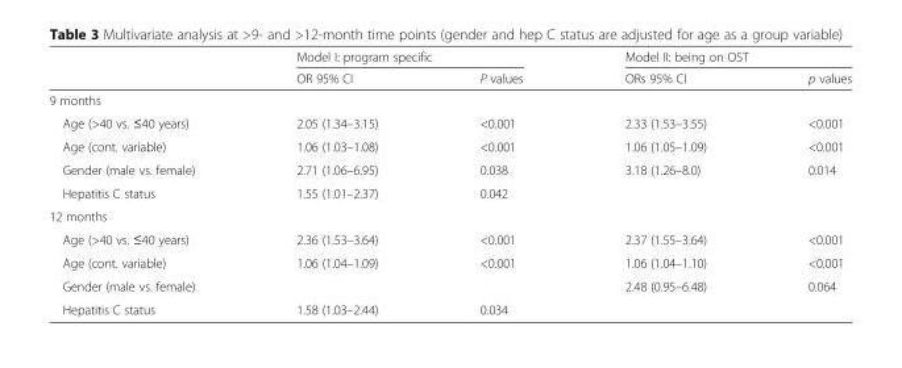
<table><thead><tr><td rowspan="2"></td><td colspan="2">Model I: program specific</td><td colspan="2">Model II: being on OST</td></tr><tr><td>OR 95% CI</td><td>P values</td><td>ORs 95% CI</td><td>p values</td></tr></thead><tbody><tr><td colspan="5">9 months</td></tr><tr><td>Age (&gt;40 vs. ≤40 years)</td><td>2.05 (1.34–3.15)</td><td>&lt;0.001</td><td>2.33 (1.53–3.55)</td><td>&lt;0.001</td></tr><tr><td>Age (cont. variable)</td><td>1.06 (1.03–1.08)</td><td>&lt;0.001</td><td>1.06 (1.05–1.09)</td><td>&lt;0.001</td></tr><tr><td>Gender (male vs. female)</td><td>2.71 (1.06–6.95)</td><td>0.038</td><td>3.18 (1.26–8.0)</td><td>0.014</td></tr><tr><td>Hepatitis C status</td><td>1.55 (1.01–2.37)</td><td>0.042</td><td></td><td></td></tr><tr><td colspan="5">12 months</td></tr><tr><td>Age (&gt;40 vs. ≤40 years)</td><td>2.36 (1.53–3.64)</td><td>&lt;0.001</td><td>2.37 (1.55–3.64)</td><td>&lt;0.001</td></tr><tr><td>Age (cont. variable)</td><td>1.06 (1.04–1.09)</td><td>&lt;0.001</td><td>1.06 (1.04–1.10)</td><td>&lt;0.001</td></tr><tr><td>Gender (male vs. female)</td><td></td><td></td><td>2.48 (0.95–6.48)</td><td>0.064</td></tr><tr><td>Hepatitis C status</td><td>1.58 (1.03–2.44)</td><td>0.034</td><td></td><td></td></tr></tbody></table>